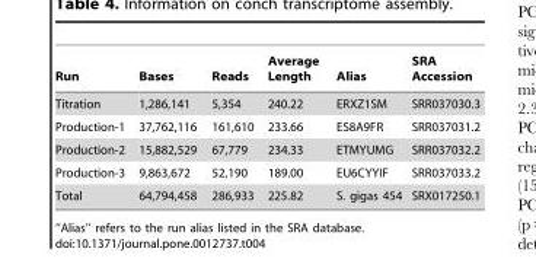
<table><thead><tr><td>Run</td><td>Bases</td><td>Reads</td><td>Average Length</td><td>Alias</td><td>SRA Accession</td></tr></thead><tbody><tr><td>Titration</td><td>1,286,141</td><td>5,354</td><td>240.22</td><td>ERXZ1SM</td><td>SRR037030.3</td></tr><tr><td>Production-1</td><td>37,762,116</td><td>161,610</td><td>233.66</td><td>ES8A9FR</td><td>SRR037031.2</td></tr><tr><td>Production-2</td><td>15,882,529</td><td>67,779</td><td>234.33</td><td>ETMYUMG</td><td>SRR037032.2</td></tr><tr><td>Production-3</td><td>9,863,672</td><td>52,190</td><td>189.00</td><td>EU6CYYIF</td><td>SRR037033.2</td></tr><tr><td>Total</td><td>64,794,458</td><td>286,933</td><td>225.82</td><td>S. gigas 454</td><td>SRX017250.1</td></tr></tbody></table>